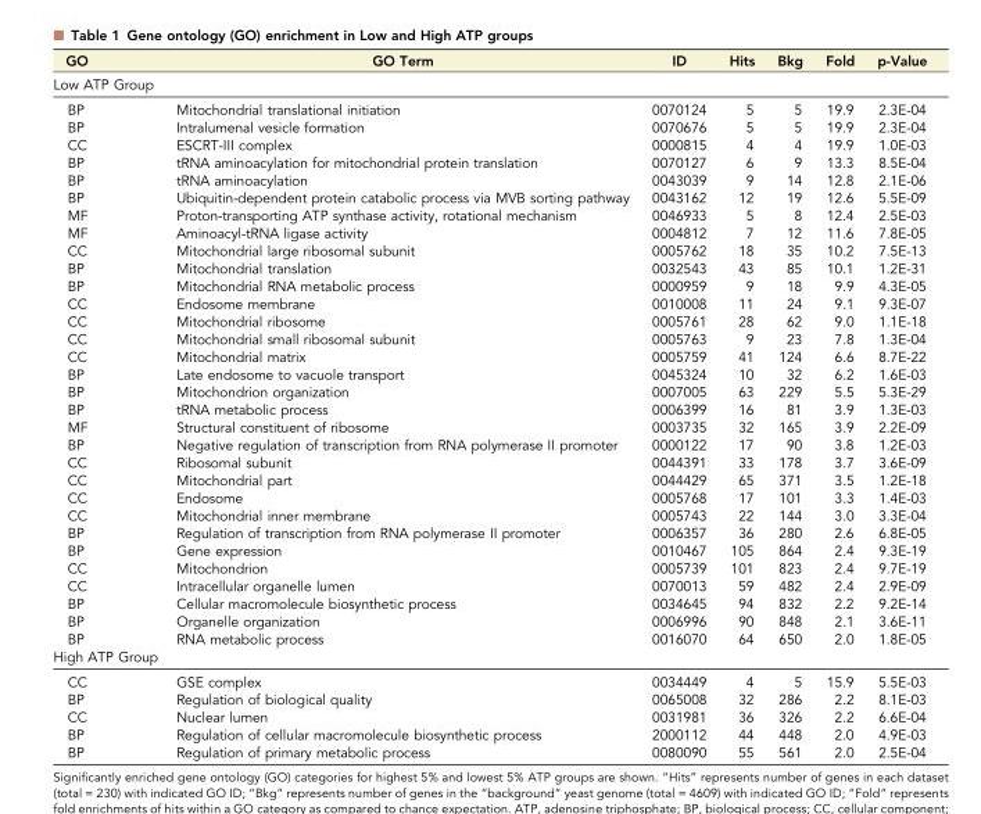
<table><thead><tr><td>GO</td><td>GO Term</td><td>ID</td><td>Hits</td><td>Bkg</td><td>Fold</td><td>p-Value</td></tr></thead><tbody><tr><td colspan="7">Low ATP Group</td></tr><tr><td>BP</td><td>Mitochondrial translational initiation</td><td>0070124</td><td>5</td><td>5</td><td>19.9</td><td>2.3E-04</td></tr><tr><td>BP</td><td>Intralumenal vesicle formation</td><td>0070676</td><td>5</td><td>5</td><td>19.9</td><td>2.3E-04</td></tr><tr><td>CC</td><td>ESCRT-III complex</td><td>0000815</td><td>4</td><td>4</td><td>19.9</td><td>1.0E-03</td></tr><tr><td>BP</td><td>tRNA aminoacylation for mitochondrial protein translation</td><td>0070127</td><td>6</td><td>9</td><td>13.3</td><td>8.5E-04</td></tr><tr><td>BP</td><td>tRNA aminoacylation</td><td>0043039</td><td>9</td><td>14</td><td>12.8</td><td>2.1E-06</td></tr><tr><td>BP</td><td>Ubiquitin-dependent protein catabolic process via MVB sorting pathway</td><td>0043162</td><td>12</td><td>19</td><td>12.6</td><td>5.5E-09</td></tr><tr><td>MF</td><td>Proton-transporting ATP synthase activity, rotational mechanism</td><td>0046933</td><td>5</td><td>8</td><td>12.4</td><td>2.5E-03</td></tr><tr><td>MF</td><td>Aminoacyl-tRNA ligase activity</td><td>0004812</td><td>7</td><td>12</td><td>11.6</td><td>7.8E-05</td></tr><tr><td>CC</td><td>Mitochondrial large ribosomal subunit</td><td>0005762</td><td>18</td><td>35</td><td>10.2</td><td>7.5E-13</td></tr><tr><td>BP</td><td>Mitochondrial translation</td><td>0032543</td><td>43</td><td>85</td><td>10.1</td><td>1.2E-31</td></tr><tr><td>BP</td><td>Mitochondrial RNA metabolic process</td><td>0000959</td><td>9</td><td>18</td><td>9.9</td><td>4.3E-05</td></tr><tr><td>CC</td><td>Endosome membrane</td><td>0010008</td><td>11</td><td>24</td><td>9.1</td><td>9.3E-07</td></tr><tr><td>CC</td><td>Mitochondrial ribosome</td><td>0005761</td><td>28</td><td>62</td><td>9.0</td><td>1.1E-18</td></tr><tr><td>CC</td><td>Mitochondrial small ribosomal subunit</td><td>0005763</td><td>9</td><td>23</td><td>7.8</td><td>1.3E-04</td></tr><tr><td>CC</td><td>Mitochondrial matrix</td><td>0005759</td><td>41</td><td>124</td><td>6.6</td><td>8.7E-22</td></tr><tr><td>BP</td><td>Late endosome to vacuole transport</td><td>0045324</td><td>10</td><td>32</td><td>6.2</td><td>1.6E-03</td></tr><tr><td>BP</td><td>Mitochondrion organization</td><td>0007005</td><td>63</td><td>229</td><td>5.5</td><td>5.3E-29</td></tr><tr><td>BP</td><td>tRNA metabolic process</td><td>0006399</td><td>16</td><td>81</td><td>3.9</td><td>1.3E-03</td></tr><tr><td>MF</td><td>Structural constituent of ribosome</td><td>0003735</td><td>32</td><td>165</td><td>3.9</td><td>2.2E-09</td></tr><tr><td>BP</td><td>Negative regulation of transcription from RNA polymerase II promoter</td><td>0000122</td><td>17</td><td>90</td><td>3.8</td><td>1.2E-03</td></tr><tr><td>CC</td><td>Ribosomal subunit</td><td>0044391</td><td>33</td><td>178</td><td>3.7</td><td>3.6E-09</td></tr><tr><td>CC</td><td>Mitochondrial part</td><td>0044429</td><td>65</td><td>371</td><td>3.5</td><td>1.2E-18</td></tr><tr><td>CC</td><td>Endosome</td><td>0005768</td><td>17</td><td>101</td><td>3.3</td><td>1.4E-03</td></tr><tr><td>CC</td><td>Mitochondrial inner membrane</td><td>0005743</td><td>22</td><td>144</td><td>3.0</td><td>3.3E-04</td></tr><tr><td>BP</td><td>Regulation of transcription from RNA polymerase II promoter</td><td>0006357</td><td>36</td><td>280</td><td>2.6</td><td>6.8E-05</td></tr><tr><td>BP</td><td>Gene expression</td><td>0010467</td><td>105</td><td>864</td><td>2.4</td><td>9.3E-19</td></tr><tr><td>CC</td><td>Mitochondrion</td><td>0005739</td><td>101</td><td>823</td><td>2.4</td><td>9.7E-19</td></tr><tr><td>CC</td><td>Intracellular organelle lumen</td><td>0070013</td><td>59</td><td>482</td><td>2.4</td><td>2.9E-09</td></tr><tr><td>BP</td><td>Cellular macromolecule biosynthetic process</td><td>0034645</td><td>94</td><td>832</td><td>2.2</td><td>9.2E-14</td></tr><tr><td>BP</td><td>Organelle organization</td><td>0006996</td><td>90</td><td>848</td><td>2.1</td><td>3.6E-11</td></tr><tr><td>BP</td><td>RNA metabolic process</td><td>0016070</td><td>64</td><td>650</td><td>2.0</td><td>1.8E-05</td></tr><tr><td colspan="7">High ATP Group</td></tr><tr><td>CC</td><td>GSE complex</td><td>0034449</td><td>4</td><td>5</td><td>15.9</td><td>5.5E-03</td></tr><tr><td>BP</td><td>Regulation of biological quality</td><td>0065008</td><td>32</td><td>286</td><td>2.2</td><td>8.1E-03</td></tr><tr><td>CC</td><td>Nuclear lumen</td><td>0031981</td><td>36</td><td>326</td><td>2.2</td><td>6.6E-04</td></tr><tr><td>BP</td><td>Regulation of cellular macromolecule biosynthetic process</td><td>2000112</td><td>44</td><td>448</td><td>2.0</td><td>4.9E-03</td></tr><tr><td>BP</td><td>Regulation of primary metabolic process</td><td>0080090</td><td>55</td><td>561</td><td>2.0</td><td>2.5E-04</td></tr></tbody></table>